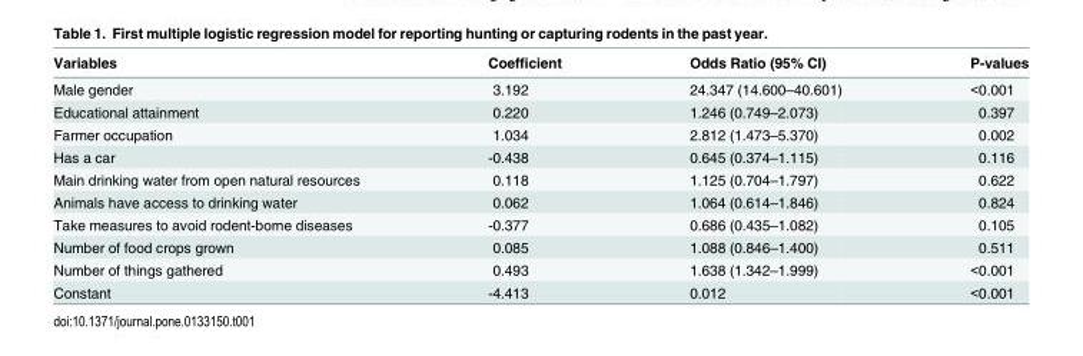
<table><thead><tr><td>Variables</td><td>Coefficient</td><td>Odds Ratio (95% CI)</td><td>P-values</td></tr></thead><tbody><tr><td>Male gender</td><td>3.192</td><td>24.347 (14.600–40.601)</td><td>&lt;0.001</td></tr><tr><td>Educational attainment</td><td>0.220</td><td>1.246 (0.749–2.073)</td><td>0.397</td></tr><tr><td>Farmer occupation</td><td>1.034</td><td>2.812 (1.473–5.370)</td><td>0.002</td></tr><tr><td>Has a car</td><td>-0.438</td><td>0.645 (0.374–1.115)</td><td>0.116</td></tr><tr><td>Main drinking water from open natural resources</td><td>0.118</td><td>1.125 (0.704–1.797)</td><td>0.622</td></tr><tr><td>Animals have access to drinking water</td><td>0.062</td><td>1.064 (0.614–1.846)</td><td>0.824</td></tr><tr><td>Take measures to avoid rodent-borne diseases</td><td>-0.377</td><td>0.686 (0.435–1.082)</td><td>0.105</td></tr><tr><td>Number of food crops grown</td><td>0.085</td><td>1.088 (0.846–1.400)</td><td>0.511</td></tr><tr><td>Number of things gathered</td><td>0.493</td><td>1.638 (1.342–1.999)</td><td>&lt;0.001</td></tr><tr><td>Constant</td><td>-4.413</td><td>0.012</td><td>&lt;0.001</td></tr></tbody></table>